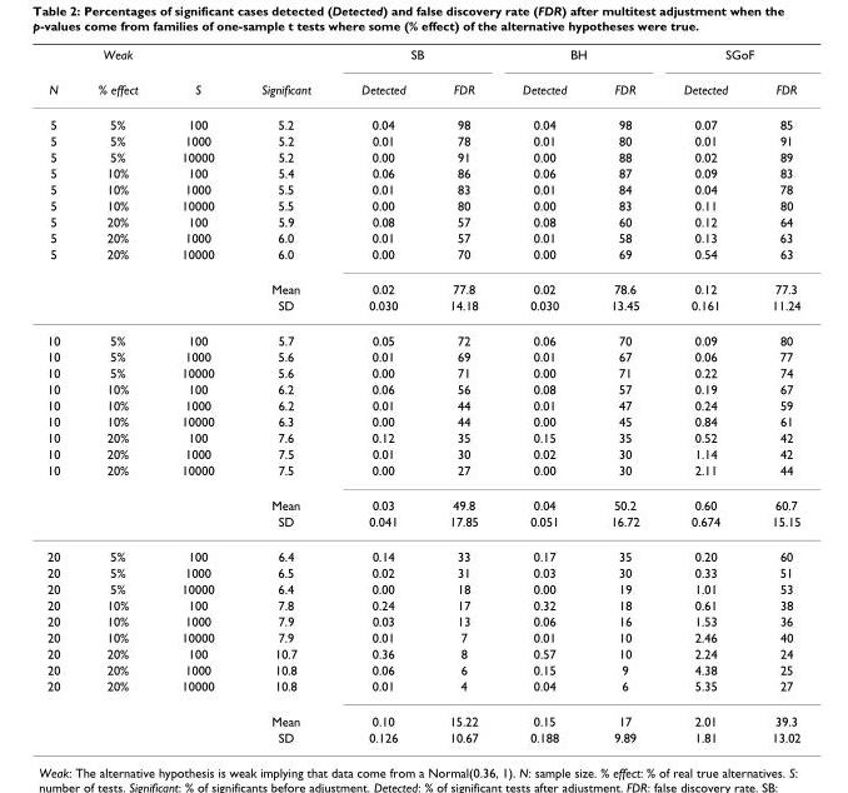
<table><thead><tr><td rowspan="2">N</td><td rowspan="2">Weak % effect</td><td rowspan="2">S</td><td rowspan="2">Significant</td><td colspan="2">SB</td><td colspan="2">BH</td><td colspan="2">SGoF</td></tr><tr><td>Detected</td><td>FDR</td><td>Detected</td><td>FDR</td><td>Detected</td><td>FDR</td></tr></thead><tbody><tr><td>5</td><td>5%</td><td>100</td><td>5.2</td><td>0.04</td><td>98</td><td>0.04</td><td>98</td><td>0.07</td><td>85</td></tr><tr><td>5</td><td>5%</td><td>1000</td><td>5.2</td><td>0.01</td><td>78</td><td>0.01</td><td>80</td><td>0.01</td><td>91</td></tr><tr><td>5</td><td>5%</td><td>10000</td><td>5.2</td><td>0.00</td><td>91</td><td>0.00</td><td>88</td><td>0.02</td><td>89</td></tr><tr><td>5</td><td>10%</td><td>100</td><td>5.4</td><td>0.06</td><td>86</td><td>0.06</td><td>87</td><td>0.09</td><td>83</td></tr><tr><td>5</td><td>10%</td><td>1000</td><td>5.5</td><td>0.01</td><td>83</td><td>0.01</td><td>84</td><td>0.04</td><td>78</td></tr><tr><td>5</td><td>10%</td><td>10000</td><td>5.5</td><td>0.00</td><td>80</td><td>0.00</td><td>83</td><td>0.11</td><td>80</td></tr><tr><td>5</td><td>20%</td><td>100</td><td>5.9</td><td>0.08</td><td>57</td><td>0.08</td><td>60</td><td>0.12</td><td>64</td></tr><tr><td>5</td><td>20%</td><td>1000</td><td>6.0</td><td>0.01</td><td>57</td><td>0.01</td><td>58</td><td>0.13</td><td>63</td></tr><tr><td rowspan="3">5</td><td>20%</td><td>10000</td><td>6.0</td><td>0.00</td><td>70</td><td>0.00</td><td>69</td><td>0.54</td><td>63</td></tr><tr><td></td><td></td><td>Mean</td><td>0.02</td><td>77.8</td><td>0.02</td><td>78.6</td><td>0.12</td><td>77.3</td></tr><tr><td></td><td></td><td>SD</td><td>0.030</td><td>14.18</td><td>0.030</td><td>13.45</td><td>0.161</td><td>11.24</td></tr><tr><td>10</td><td>5%</td><td>100</td><td>5.7</td><td>0.05</td><td>72</td><td>0.06</td><td>70</td><td>0.09</td><td>80</td></tr><tr><td>10</td><td>5%</td><td>1000</td><td>5.6</td><td>0.01</td><td>69</td><td>0.01</td><td>67</td><td>0.06</td><td>77</td></tr><tr><td>10</td><td>5%</td><td>10000</td><td>5.6</td><td>0.00</td><td>71</td><td>0.00</td><td>71</td><td>0.22</td><td>74</td></tr><tr><td>10</td><td>10%</td><td>100</td><td>6.2</td><td>0.06</td><td>56</td><td>0.08</td><td>57</td><td>0.19</td><td>67</td></tr><tr><td>10</td><td>10%</td><td>1000</td><td>6.2</td><td>0.01</td><td>44</td><td>0.01</td><td>47</td><td>0.24</td><td>59</td></tr><tr><td>10</td><td>10%</td><td>10000</td><td>6.3</td><td>0.00</td><td>44</td><td>0.00</td><td>45</td><td>0.84</td><td>61</td></tr><tr><td>10</td><td>20%</td><td>100</td><td>7.6</td><td>0.12</td><td>35</td><td>0.15</td><td>35</td><td>0.52</td><td>42</td></tr><tr><td>10</td><td>20%</td><td>1000</td><td>7.5</td><td>0.01</td><td>30</td><td>0.02</td><td>30</td><td>1.14</td><td>42</td></tr><tr><td rowspan="3">10</td><td>20%</td><td>10000</td><td>7.5</td><td>0.00</td><td>27</td><td>0.00</td><td>30</td><td>2.11</td><td>44</td></tr><tr><td></td><td></td><td>Mean</td><td>0.03</td><td>49.8</td><td>0.04</td><td>50.2</td><td>0.60</td><td>60.7</td></tr><tr><td></td><td></td><td>SD</td><td>0.041</td><td>17.85</td><td>0.051</td><td>16.72</td><td>0.674</td><td>15.15</td></tr><tr><td>20</td><td>5%</td><td>100</td><td>6.4</td><td>0.14</td><td>33</td><td>0.17</td><td>35</td><td>0.20</td><td>60</td></tr><tr><td>20</td><td>5%</td><td>1000</td><td>6.5</td><td>0.02</td><td>31</td><td>0.03</td><td>30</td><td>0.33</td><td>51</td></tr><tr><td>20</td><td>5%</td><td>10000</td><td>6.4</td><td>0.00</td><td>18</td><td>0.00</td><td>19</td><td>1.01</td><td>53</td></tr><tr><td>20</td><td>10%</td><td>100</td><td>7.8</td><td>0.24</td><td>17</td><td>0.32</td><td>18</td><td>0.61</td><td>38</td></tr><tr><td>20</td><td>10%</td><td>1000</td><td>7.9</td><td>0.03</td><td>13</td><td>0.06</td><td>16</td><td>1.53</td><td>36</td></tr><tr><td>20</td><td>10%</td><td>10000</td><td>7.9</td><td>0.01</td><td>7</td><td>0.01</td><td>10</td><td>2.46</td><td>40</td></tr><tr><td>20</td><td>20%</td><td>100</td><td>10.7</td><td>0.36</td><td>8</td><td>0.57</td><td>10</td><td>2.24</td><td>24</td></tr><tr><td>20</td><td>20%</td><td>1000</td><td>10.8</td><td>0.06</td><td>6</td><td>0.15</td><td>9</td><td>4.38</td><td>25</td></tr><tr><td rowspan="3">20</td><td>20%</td><td>10000</td><td>10.8</td><td>0.01</td><td>4</td><td>0.04</td><td>6</td><td>5.35</td><td>27</td></tr><tr><td></td><td></td><td>Mean</td><td>0.10</td><td>15.22</td><td>0.15</td><td>17</td><td>2.01</td><td>39.3</td></tr><tr><td></td><td></td><td>SD</td><td>0.126</td><td>10.67</td><td>0.188</td><td>9.89</td><td>1.81</td><td>13.02</td></tr></tbody></table>